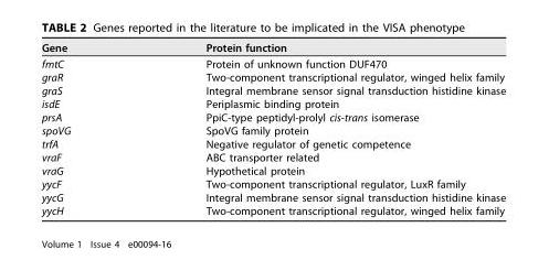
<table><thead><tr><td>Gene</td><td>Protein function</td></tr></thead><tbody><tr><td>fmtC</td><td>Protein of unknown function DUF470</td></tr><tr><td>graR</td><td>Two-component transcriptional regulator, winged helix family</td></tr><tr><td>graS</td><td>Integral membrane sensor signal transduction histidine kinase</td></tr><tr><td>isdE</td><td>Periplasmic binding protein</td></tr><tr><td>prsA</td><td>PpiC-type peptidyl-prolyl cis-trans isomerase</td></tr><tr><td>spoVG</td><td>SpoVG family protein</td></tr><tr><td>trfA</td><td>Negative regulator of genetic competence</td></tr><tr><td>vraF</td><td>ABC transporter related</td></tr><tr><td>vraG</td><td>Hypothetical protein</td></tr><tr><td>yycF</td><td>Two-component transcriptional regulator, LuxR family</td></tr><tr><td>yycG</td><td>Integral membrane sensor signal transduction histidine kinase</td></tr><tr><td>yycH</td><td>Two-component transcriptional regulator, winged helix family</td></tr></tbody></table>